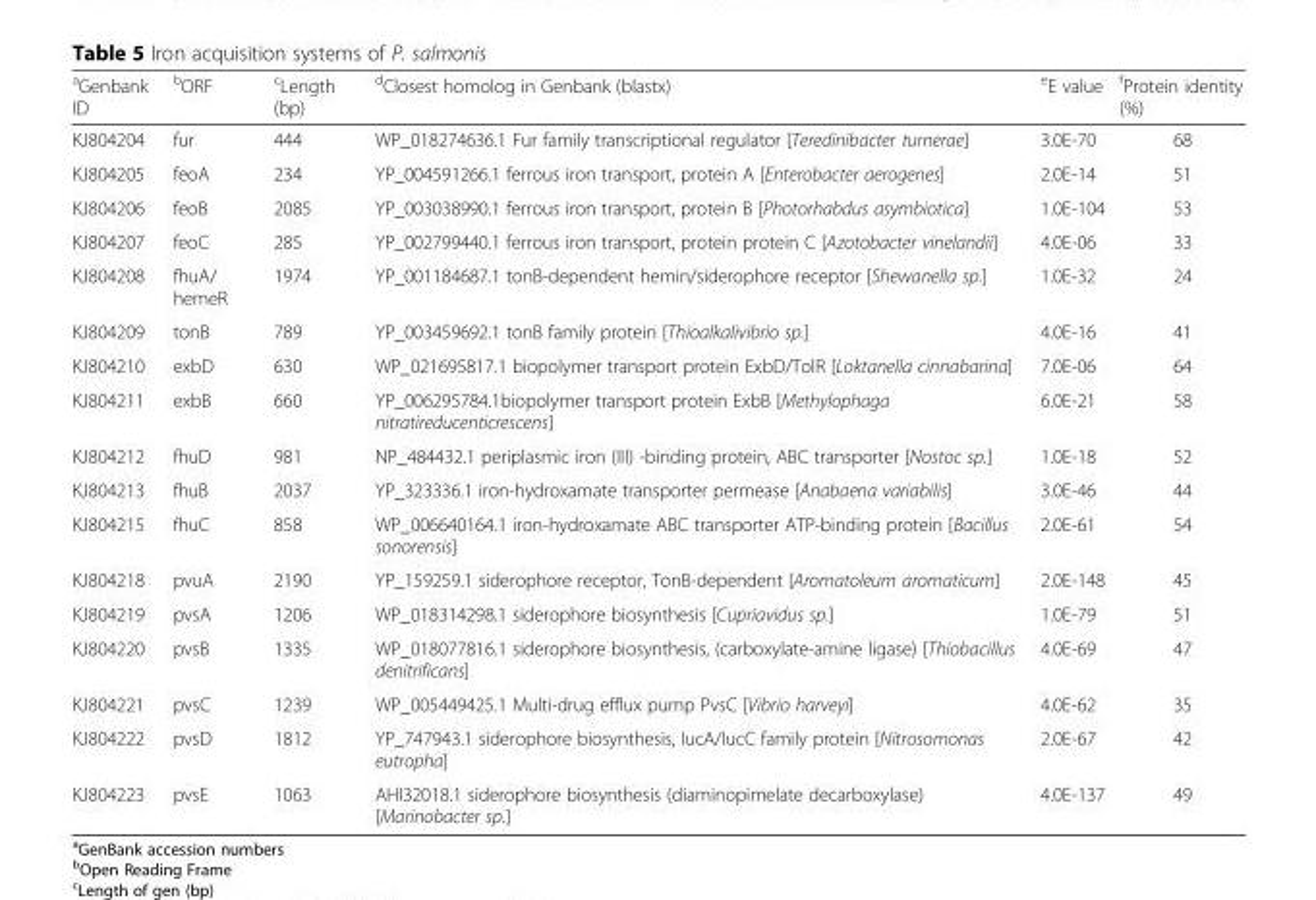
<table><thead><tr><td><sup>a</sup>Genbank ID</td><td><sup>b</sup>ORF</td><td><sup>c</sup>Length (bp)</td><td><sup>d</sup>Closest homolog in Genbank (blastx)</td><td><sup>e</sup>E value</td><td><sup>f</sup>Protein identity (%)</td></tr></thead><tbody><tr><td>KJ804204</td><td>fur</td><td>444</td><td>WP_018274636.1 Fur family transcriptional regulator [Teredinibacter turnerae]</td><td>3.0E-70</td><td>68</td></tr><tr><td>KJ804205</td><td>feoA</td><td>234</td><td>YP_004591266.1 ferrous iron transport, protein A [Enterobacter aerogenes]</td><td>2.0E-14</td><td>51</td></tr><tr><td>KJ804206</td><td>feoB</td><td>2085</td><td>YP_003038990.1 ferrous iron transport, protein B [Photorhabdus asymbiotica]</td><td>1.0E-104</td><td>53</td></tr><tr><td>KJ804207</td><td>feoC</td><td>285</td><td>YP_002799440.1 ferrous iron transport, protein protein C [Azotobacter vinelandii]</td><td>4.0E-06</td><td>33</td></tr><tr><td>KJ804208</td><td>fhuA/ hemeR</td><td>1974</td><td>YP_001184687.1 tonB-dependent hemin/siderophore receptor [Shewanella sp.]</td><td>1.0E-32</td><td>24</td></tr><tr><td>KJ804209</td><td>tonB</td><td>789</td><td>YP_003459692.1 tonB family protein [Thioalkalivibrio sp.]</td><td>4.0E-16</td><td>41</td></tr><tr><td>KJ804210</td><td>exbD</td><td>630</td><td>WP_021695817.1 biopolymer transport protein ExbD/TolR [Loktanella cinnabarina]</td><td>7.0E-06</td><td>64</td></tr><tr><td>KJ804211</td><td>exbB</td><td>660</td><td>YP_006295784.1biopolymer transport protein ExbB [Methylophaga nitratireducenticrescens]</td><td>6.0E-21</td><td>58</td></tr><tr><td>KJ804212</td><td>fhuD</td><td>981</td><td>NP_484432.1 periplasmic iron (III) -binding protein, ABC transporter [Nostoc sp.]</td><td>1.0E-18</td><td>52</td></tr><tr><td>KJ804213</td><td>fhuB</td><td>2037</td><td>YP_323336.1 iron-hydroxamate transporter permease [Anabaena variabilis]</td><td>3.0E-46</td><td>44</td></tr><tr><td>KJ804215</td><td>fhuC</td><td>858</td><td>WP_006640164.1 iron-hydroxamate ABC transporter ATP-binding protein [Bacillus sonorensis]</td><td>2.0E-61</td><td>54</td></tr><tr><td>KJ804218</td><td>pvuA</td><td>2190</td><td>YP_159259.1 siderophore receptor, TonB-dependent [Aromatoleum aromaticum]</td><td>2.0E-148</td><td>45</td></tr><tr><td>KJ804219</td><td>pvsA</td><td>1206</td><td>WP_018314298.1 siderophore biosynthesis [Cupriavidus sp.]</td><td>1.0E-79</td><td>51</td></tr><tr><td>KJ804220</td><td>pvsB</td><td>1335</td><td>WP_018077816.1 siderophore biosynthesis, (carboxylate-amine ligase) [Thiobacillus denitrificans]</td><td>4.0E-69</td><td>47</td></tr><tr><td>KJ804221</td><td>pvsC</td><td>1239</td><td>WP_005449425.1 Multi-drug efflux pump PvsC [Vibrio harveyi]</td><td>4.0E-62</td><td>35</td></tr><tr><td>KJ804222</td><td>pvsD</td><td>1812</td><td>YP_747943.1 siderophore biosynthesis, IucA/IucC family protein [Nitrosomonas eutropha]</td><td>2.0E-67</td><td>42</td></tr><tr><td>KJ804223</td><td>pvsE</td><td>1063</td><td>AHI32018.1 siderophore biosynthesis (diaminopimelate decarboxylase) [Marinobacter sp.]</td><td>4.0E-137</td><td>49</td></tr></tbody></table>